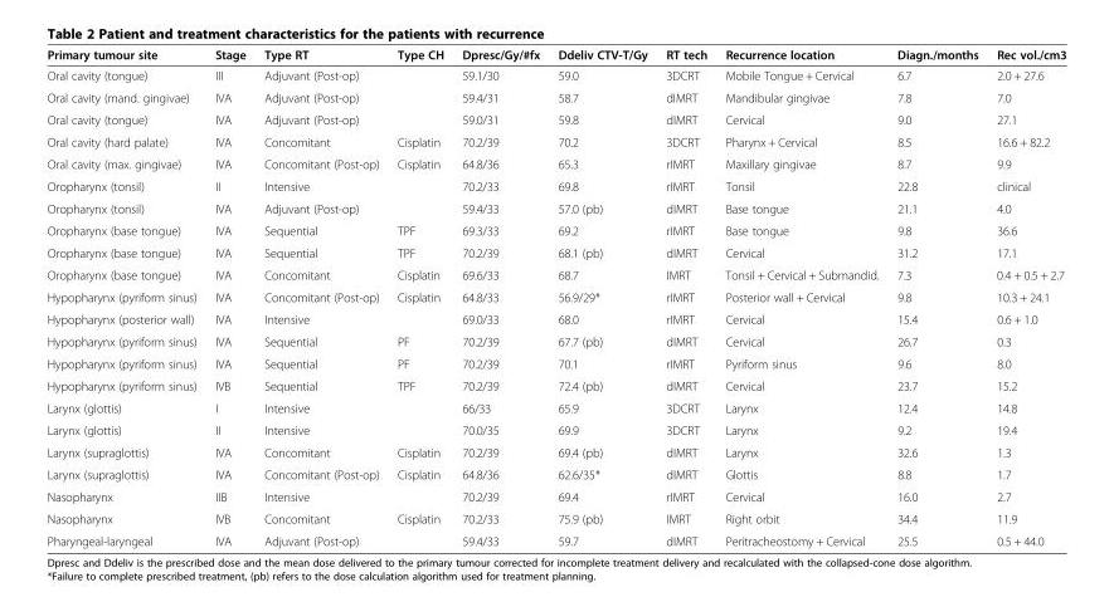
<table><thead><tr><td>Primary tumour site</td><td>Stage</td><td>Type RT</td><td>Type CH</td><td>Dpresc/Gy/#fx</td><td>Ddeliv CTV-T/Gy</td><td>RT tech</td><td>Recurrence location</td><td>Diagn./months</td><td>Rec vol./cm3</td></tr></thead><tbody><tr><td>Oral cavity (tongue)</td><td>III</td><td>Adjuvant (Post-op)</td><td></td><td>59.1/30</td><td>59.0</td><td>3DCRT</td><td>Mobile Tongue + Cervical</td><td>6.7</td><td>2.0 + 27.6</td></tr><tr><td>Oral cavity (mand. gingivae)</td><td>IVA</td><td>Adjuvant (Post-op)</td><td></td><td>59.4/31</td><td>58.7</td><td>dIMRT</td><td>Mandibular gingivae</td><td>7.8</td><td>7.0</td></tr><tr><td>Oral cavity (tongue)</td><td>IVA</td><td>Adjuvant (Post-op)</td><td></td><td>59.0/31</td><td>59.8</td><td>dIMRT</td><td>Cervical</td><td>9.0</td><td>27.1</td></tr><tr><td>Oral cavity (hard palate)</td><td>IVA</td><td>Concomitant</td><td>Cisplatin</td><td>70.2/39</td><td>70.2</td><td>3DCRT</td><td>Pharynx + Cervical</td><td>8.5</td><td>16.6 + 82.2</td></tr><tr><td>Oral cavity (max. gingivae)</td><td>IVA</td><td>Concomitant (Post-op)</td><td>Cisplatin</td><td>64.8/36</td><td>65.3</td><td>rIMRT</td><td>Maxillary gingivae</td><td>8.7</td><td>9.9</td></tr><tr><td>Oropharynx (tonsil)</td><td>II</td><td>Intensive</td><td></td><td>70.2/33</td><td>69.8</td><td>rIMRT</td><td>Tonsil</td><td>22.8</td><td>clinical</td></tr><tr><td>Oropharynx (tonsil)</td><td>IVA</td><td>Adjuvant (Post-op)</td><td></td><td>59.4/33</td><td>57.0 (pb)</td><td>dIMRT</td><td>Base tongue</td><td>21.1</td><td>4.0</td></tr><tr><td>Oropharynx (base tongue)</td><td>IVA</td><td>Sequential</td><td>TPF</td><td>69.3/33</td><td>69.2</td><td>rIMRT</td><td>Base tongue</td><td>9.8</td><td>36.6</td></tr><tr><td>Oropharynx (base tongue)</td><td>IVA</td><td>Sequential</td><td>TPF</td><td>70.2/39</td><td>68.1 (pb)</td><td>dIMRT</td><td>Cervical</td><td>31.2</td><td>17.1</td></tr><tr><td>Oropharynx (base tongue)</td><td>IVA</td><td>Concomitant</td><td>Cisplatin</td><td>69.6/33</td><td>68.7</td><td>IMRT</td><td>Tonsil + Cervical + Submandid.</td><td>7.3</td><td>0.4 + 0.5 + 2.7</td></tr><tr><td>Hypopharynx (pyriform sinus)</td><td>IVA</td><td>Concomitant (Post-op)</td><td>Cisplatin</td><td>64.8/33</td><td>56.9/29*</td><td>rIMRT</td><td>Posterior wall + Cervical</td><td>9.8</td><td>10.3 + 24.1</td></tr><tr><td>Hypopharynx (posterior wall)</td><td>IVA</td><td>Intensive</td><td></td><td>69.0/33</td><td>68.0</td><td>rIMRT</td><td>Cervical</td><td>15.4</td><td>0.6 + 1.0</td></tr><tr><td>Hypopharynx (pyriform sinus)</td><td>IVA</td><td>Sequential</td><td>PF</td><td>70.2/39</td><td>67.7 (pb)</td><td>dIMRT</td><td>Cervical</td><td>26.7</td><td>0.3</td></tr><tr><td>Hypopharynx (pyriform sinus)</td><td>IVA</td><td>Sequential</td><td>PF</td><td>70.2/39</td><td>70.1</td><td>rIMRT</td><td>Pyriform sinus</td><td>9.6</td><td>8.0</td></tr><tr><td>Hypopharynx (pyriform sinus)</td><td>IVB</td><td>Sequential</td><td>TPF</td><td>70.2/39</td><td>72.4 (pb)</td><td>dIMRT</td><td>Cervical</td><td>23.7</td><td>15.2</td></tr><tr><td>Larynx (glottis)</td><td>I</td><td>Intensive</td><td></td><td>66/33</td><td>65.9</td><td>3DCRT</td><td>Larynx</td><td>12.4</td><td>14.8</td></tr><tr><td>Larynx (glottis)</td><td>II</td><td>Intensive</td><td></td><td>70.0/35</td><td>69.9</td><td>3DCRT</td><td>Larynx</td><td>9.2</td><td>19.4</td></tr><tr><td>Larynx (supraglottis)</td><td>IVA</td><td>Concomitant</td><td>Cisplatin</td><td>70.2/39</td><td>69.4 (pb)</td><td>dIMRT</td><td>Larynx</td><td>32.6</td><td>1.3</td></tr><tr><td>Larynx (supraglottis)</td><td>IVA</td><td>Concomitant (Post-op)</td><td>Cisplatin</td><td>64.8/36</td><td>62.6/35*</td><td>dIMRT</td><td>Glottis</td><td>8.8</td><td>1.7</td></tr><tr><td>Nasopharynx</td><td>IIB</td><td>Intensive</td><td></td><td>70.2/39</td><td>69.4</td><td>rIMRT</td><td>Cervical</td><td>16.0</td><td>2.7</td></tr><tr><td>Nasopharynx</td><td>IVB</td><td>Concomitant</td><td>Cisplatin</td><td>70.2/33</td><td>75.9 (pb)</td><td>IMRT</td><td>Right orbit</td><td>34.4</td><td>11.9</td></tr><tr><td>Pharyngeal-laryngeal</td><td>IVA</td><td>Adjuvant (Post-op)</td><td></td><td>59.4/33</td><td>59.7</td><td>dIMRT</td><td>Peritracheostomy + Cervical</td><td>25.5</td><td>0.5 + 44.0</td></tr></tbody></table>